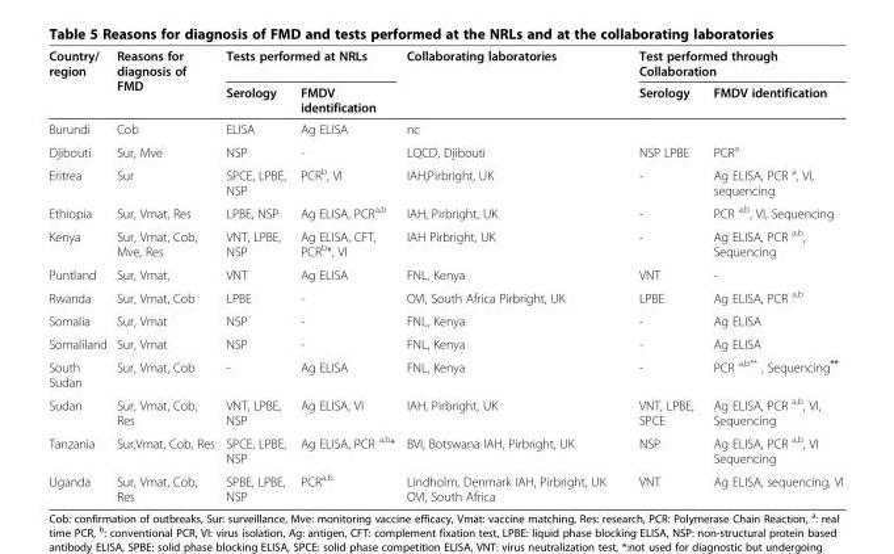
<table><thead><tr><td rowspan="2">Country/ region</td><td rowspan="2">Reasons for diagnosis of FMD</td><td colspan="2">Tests performed at NRLs</td><td rowspan="2">Collaborating laboratories</td><td colspan="2">Test performed through Collaboration</td></tr><tr><td>Serology</td><td>FMDV identification</td><td>Serology</td><td>FMDV identification</td></tr></thead><tbody><tr><td>Burundi</td><td>Cob</td><td>ELISA</td><td>Ag ELISA</td><td>nc</td><td></td><td></td></tr><tr><td>Djibouti</td><td>Sur, Mve</td><td>NSP</td><td>-</td><td>LQCD, Djibouti</td><td>NSP LPBE</td><td>PCR<sup>a</sup></td></tr><tr><td>Eritrea</td><td>Sur</td><td>SPCE, LPBE, NSP</td><td>PCR<sup>b</sup>, VI</td><td>IAH,Pirbright, UK</td><td>-</td><td>Ag ELISA, PCR <sup>a</sup>, VI, sequencing</td></tr><tr><td>Ethiopia</td><td>Sur, Vmat, Res</td><td>LPBE, NSP</td><td>Ag ELISA, PCR<sup>a,b</sup></td><td>IAH, Pirbright, UK</td><td>-</td><td>PCR <sup>a,b</sup>, VI, Sequencing</td></tr><tr><td>Kenya</td><td>Sur, Vmat, Cob, Mve, Res</td><td>VNT, LPBE, NSP</td><td>Ag ELISA, CFT, PCR<sup>b</sup>*, VI</td><td>IAH Pirbright, UK</td><td>-</td><td>Ag ELISA, PCR <sup>a,b</sup>, Sequencing</td></tr><tr><td>Puntland</td><td>Sur, Vmat,</td><td>VNT</td><td>Ag ELISA</td><td>FNL, Kenya</td><td>VNT</td><td>-</td></tr><tr><td>Rwanda</td><td>Sur, Vmat, Cob</td><td>LPBE</td><td>-</td><td>OVI, South Africa Pirbright, UK</td><td>LPBE</td><td>Ag ELISA, PCR <sup>a,b</sup></td></tr><tr><td>Somalia</td><td>Sur, Vmat</td><td>NSP</td><td>-</td><td>FNL, Kenya</td><td>-</td><td>Ag ELISA</td></tr><tr><td>Somaliland</td><td>Sur, Vmat</td><td>NSP</td><td>-</td><td>FNL, Kenya</td><td>-</td><td>Ag ELISA</td></tr><tr><td>South Sudan</td><td>Sur, Vmat, Cob</td><td>-</td><td>Ag ELISA</td><td>FNL, Kenya</td><td>-</td><td>PCR <sup>a,b**</sup> , Sequencing**</td></tr><tr><td>Sudan</td><td>Sur, Vmat, Cob, Res</td><td>VNT, LPBE, NSP</td><td>Ag ELISA, VI</td><td>IAH, Pirbright, UK</td><td>VNT, LPBE, SPCE</td><td>Ag ELISA, PCR <sup>a,b</sup>, VI, Sequencing</td></tr><tr><td>Tanzania</td><td>Sur,Vmat, Cob, Res</td><td>SPCE, LPBE, NSP</td><td>Ag ELISA, PCR <sup>a,b</sup>*</td><td>BVI, Botswana IAH, Pirbright, UK</td><td>NSP</td><td>Ag ELISA, PCR <sup>a,b</sup>, VI Sequencing</td></tr><tr><td>Uganda</td><td>Sur, Vmat, Cob, Res</td><td>SPBE, LPBE, NSP</td><td>PCR<sup>a,b</sup></td><td>Lindholm, Denmark IAH, Pirbright, UK OVI, South Africa</td><td>VNT</td><td>Ag ELISA, sequencing, VI</td></tr></tbody></table>